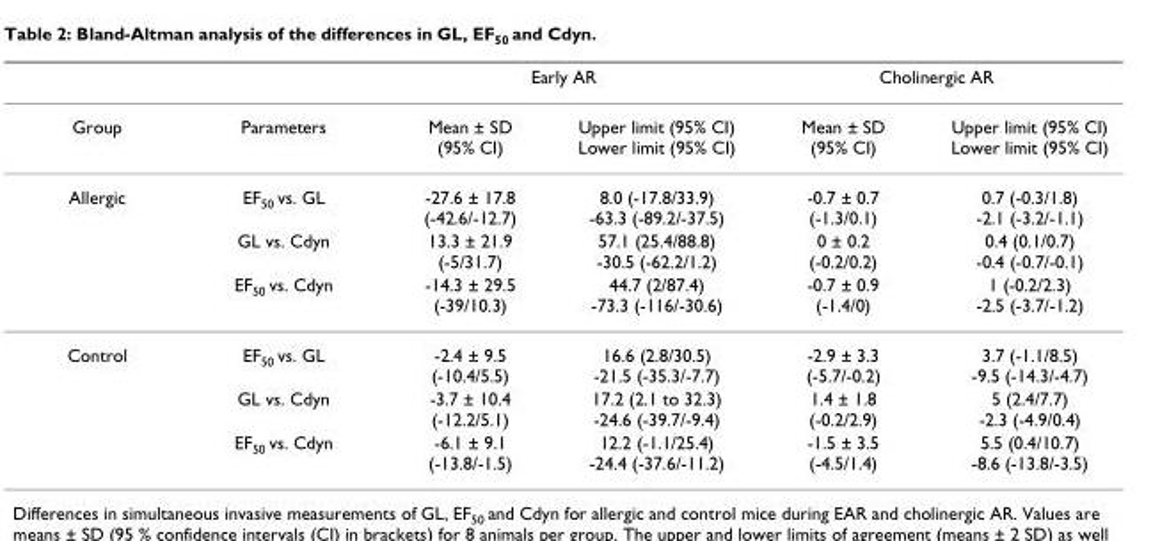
<table><thead><tr><td rowspan="2">Group</td><td rowspan="2">Parameters</td><td colspan="2">Early AR</td><td colspan="2">Cholinergic AR</td></tr><tr><td>Mean ± SD (95% CI)</td><td>Upper limit (95% CI) Lower limit (95% CI)</td><td>Mean ± SD (95% CI)</td><td>Upper limit (95% CI) Lower limit (95% CI)</td></tr></thead><tbody><tr><td rowspan="3">Allergic</td><td>EF<sub>50</sub> vs. GL</td><td>-27.6 ± 17.8 (-42.6/-12.7)</td><td>8.0 (-17.8/33.9) -63.3 (-89.2/-37.5)</td><td>-0.7 ± 0.7 (-1.3/0.1)</td><td>0.7 (-0.3/1.8) -2.1 (-3.2/-1.1)</td></tr><tr><td>GL vs. Cdyn</td><td>13.3 ± 21.9 (-5/31.7)</td><td>57.1 (25.4/88.8) -30.5 (-62.2/1.2)</td><td>0 ± 0.2 (-0.2/0.2)</td><td>0.4 (0.1/0.7) -0.4 (-0.7/-0.1)</td></tr><tr><td>EF<sub>50</sub> vs. Cdyn</td><td>-14.3 ± 29.5 (-39/10.3)</td><td>44.7 (2/87.4) -73.3 (-116/-30.6)</td><td>-0.7 ± 0.9 (-1.4/0)</td><td>1 (-0.2/2.3) -2.5 (-3.7/-1.2)</td></tr><tr><td rowspan="3">Control</td><td>EF<sub>50</sub> vs. GL</td><td>-2.4 ± 9.5 (-10.4/5.5)</td><td>16.6 (2.8/30.5) -21.5 (-35.3/-7.7)</td><td>-2.9 ± 3.3 (-5.7/-0.2)</td><td>3.7 (-1.1/8.5) -9.5 (-14.3/-4.7)</td></tr><tr><td>GL vs. Cdyn</td><td>-3.7 ± 10.4 (-12.2/5.1)</td><td>17.2 (2.1 to 32.3) -24.6 (-39.7/-9.4)</td><td>1.4 ± 1.8 (-0.2/2.9)</td><td>5 (2.4/7.7) -2.3 (-4.9/0.4)</td></tr><tr><td>EF<sub>50</sub> vs. Cdyn</td><td>-6.1 ± 9.1 (-13.8/-1.5)</td><td>12.2 (-1.1/25.4) -24.4 (-37.6/-11.2)</td><td>-1.5 ± 3.5 (-4.5/1.4)</td><td>5.5 (0.4/10.7) -8.6 (-13.8/-3.5)</td></tr></tbody></table>